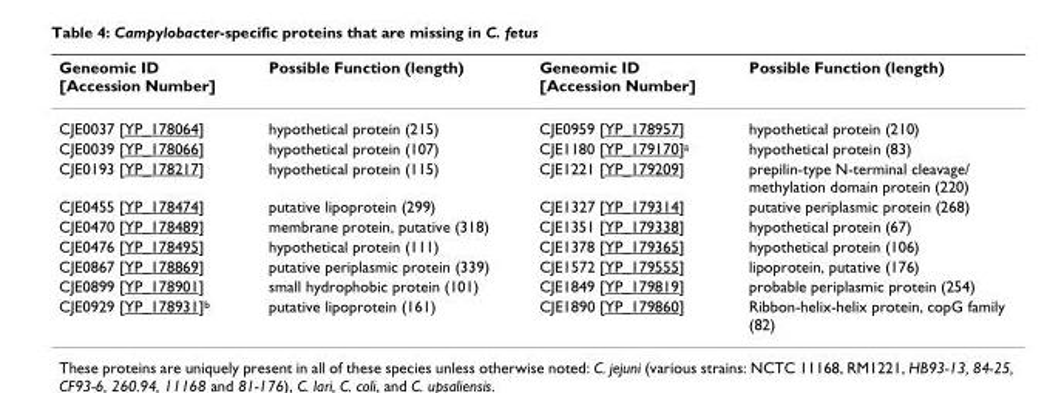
<table><thead><tr><td>Geneomic ID [Accession Number]</td><td>Possible Function (length)</td><td>Geneomic ID [Accession Number]</td><td>Possible Function (length)</td></tr></thead><tbody><tr><td>CJE0037 [YP_178064]</td><td>hypothetical protein (215)</td><td>CJE0959 [YP_178957]</td><td>hypothetical protein (210)</td></tr><tr><td>CJE0039 [YP_178066]</td><td>hypothetical protein (107)</td><td>CJE1180 [YP_179170]a</td><td>hypothetical protein (83)</td></tr><tr><td>CJE0193 [YP_178217]</td><td>hypothetical protein (115)</td><td>CJE1221 [YP_179209]</td><td>prepilin-type N-terminal cleavage/ methylation domain protein (220)</td></tr><tr><td>CJE0455 [YP_178474]</td><td>putative lipoprotein (299)</td><td>CJE1327 [YP_179314]</td><td>putative periplasmic protein (268)</td></tr><tr><td>CJE0470 [YP_178489]</td><td>membrane protein, putative (318)</td><td>CJE1351 [YP_179338]</td><td>hypothetical protein (67)</td></tr><tr><td>CJE0476 [YP_178495]</td><td>hypothetical protein (111)</td><td>CJE1378 [YP_179365]</td><td>hypothetical protein (106)</td></tr><tr><td>CJE0867 [YP_178869]</td><td>putative periplasmic protein (339)</td><td>CJE1572 [YP_179555]</td><td>lipoprotein, putative (176)</td></tr><tr><td>CJE0899 [YP_178901]</td><td>small hydrophobic protein (101)</td><td>CJE1849 [YP_179819]</td><td>probable periplasmic protein (254)</td></tr><tr><td>CJE0929 [YP_178931]b</td><td>putative lipoprotein (161)</td><td>CJE1890 [YP_179860]</td><td>Ribbon-helix-helix protein, copG family (82)</td></tr></tbody></table>